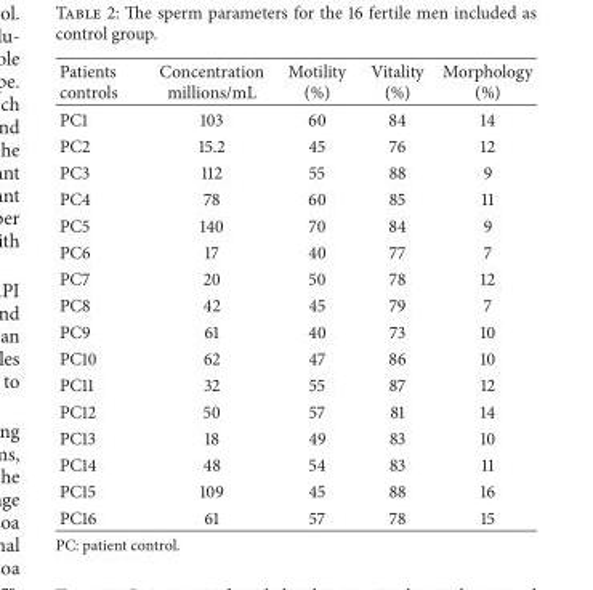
<table><thead><tr><td>Patients controls</td><td>Concentration millions/mL</td><td>Motility (%)</td><td>Vitality (%)</td><td>Morphology (%)</td></tr></thead><tbody><tr><td>PC1</td><td>103</td><td>60</td><td>84</td><td>14</td></tr><tr><td>PC2</td><td>15.2</td><td>45</td><td>76</td><td>12</td></tr><tr><td>PC3</td><td>112</td><td>55</td><td>88</td><td>9</td></tr><tr><td>PC4</td><td>78</td><td>60</td><td>85</td><td>11</td></tr><tr><td>PC5</td><td>140</td><td>70</td><td>84</td><td>9</td></tr><tr><td>PC6</td><td>17</td><td>40</td><td>77</td><td>7</td></tr><tr><td>PC7</td><td>20</td><td>50</td><td>78</td><td>12</td></tr><tr><td>PC8</td><td>42</td><td>45</td><td>79</td><td>7</td></tr><tr><td>PC9</td><td>61</td><td>40</td><td>73</td><td>10</td></tr><tr><td>PC10</td><td>62</td><td>47</td><td>86</td><td>10</td></tr><tr><td>PC11</td><td>32</td><td>55</td><td>87</td><td>12</td></tr><tr><td>PC12</td><td>50</td><td>57</td><td>81</td><td>14</td></tr><tr><td>PC13</td><td>18</td><td>49</td><td>83</td><td>10</td></tr><tr><td>PC14</td><td>48</td><td>54</td><td>83</td><td>11</td></tr><tr><td>PC15</td><td>109</td><td>45</td><td>88</td><td>16</td></tr><tr><td>PC16</td><td>61</td><td>57</td><td>78</td><td>15</td></tr></tbody></table>